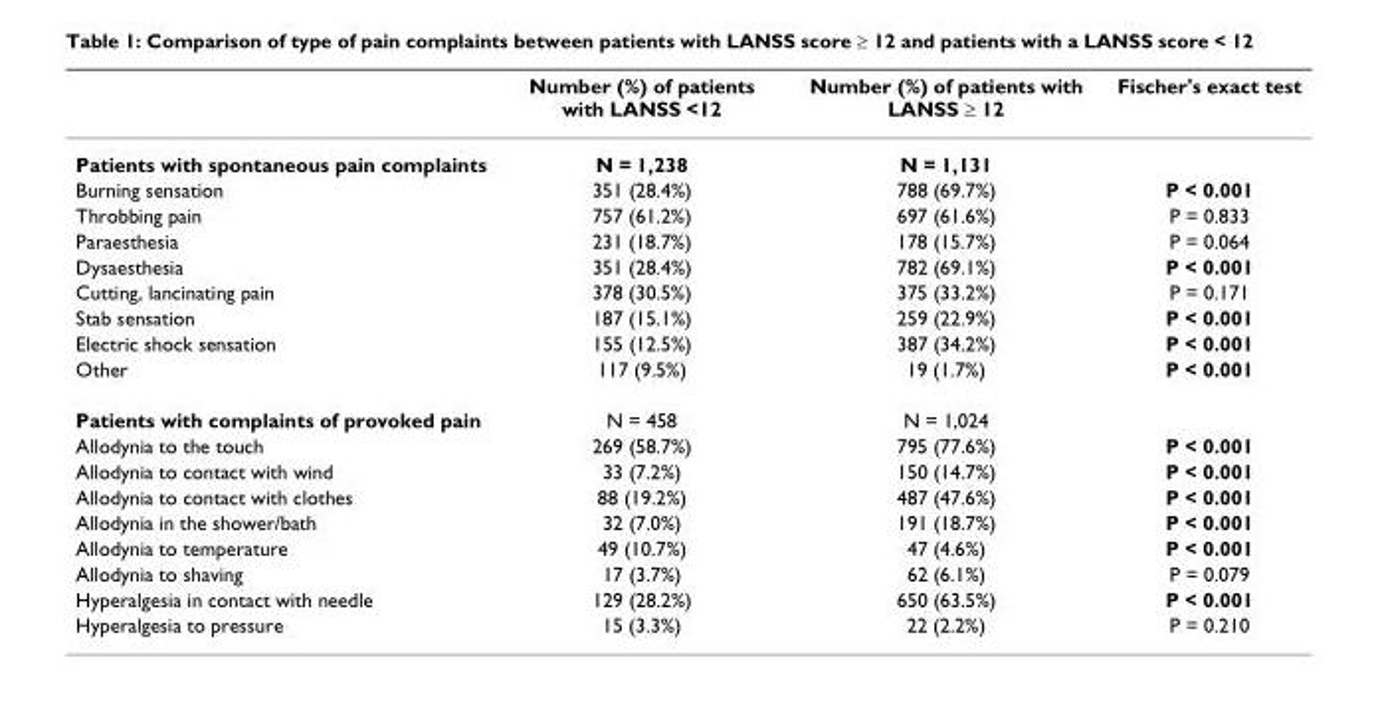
<table><thead><tr><td></td><td>Number (%) of patients with LANSS &lt;12</td><td>Number (%) of patients with LANSS ≥ 12</td><td>Fischer&#x27;s exact test</td></tr></thead><tbody><tr><td>Patients with spontaneous pain complaints</td><td>N = 1,238</td><td>N = 1,131</td><td></td></tr><tr><td>Burning sensation</td><td>351 (28.4%)</td><td>788 (69.7%)</td><td>P &lt; 0.001</td></tr><tr><td>Throbbing pain</td><td>757 (61.2%)</td><td>697 (61.6%)</td><td>P = 0.833</td></tr><tr><td>Paraesthesia</td><td>231 (18.7%)</td><td>178 (15.7%)</td><td>P = 0.064</td></tr><tr><td>Dysaesthesia</td><td>351 (28.4%)</td><td>782 (69.1%)</td><td>P &lt; 0.001</td></tr><tr><td>Cutting, lancinating pain</td><td>378 (30.5%)</td><td>375 (33.2%)</td><td>P = 0.171</td></tr><tr><td>Stab sensation</td><td>187 (15.1%)</td><td>259 (22.9%)</td><td>P &lt; 0.001</td></tr><tr><td>Electric shock sensation</td><td>155 (12.5%)</td><td>387 (34.2%)</td><td>P &lt; 0.001</td></tr><tr><td>Other</td><td>117 (9.5%)</td><td>19 (1.7%)</td><td>P &lt; 0.001</td></tr><tr><td>Patients with complaints of provoked pain</td><td>N = 458</td><td>N = 1,024</td><td></td></tr><tr><td>Allodynia to the touch</td><td>269 (58.7%)</td><td>795 (77.6%)</td><td>P &lt; 0.001</td></tr><tr><td>Allodynia to contact with wind</td><td>33 (7.2%)</td><td>150 (14.7%)</td><td>P &lt; 0.001</td></tr><tr><td>Allodynia to contact with clothes</td><td>88 (19.2%)</td><td>487 (47.6%)</td><td>P &lt; 0.001</td></tr><tr><td>Allodynia in the shower/bath</td><td>32 (7.0%)</td><td>191 (18.7%)</td><td>P &lt; 0.001</td></tr><tr><td>Allodynia to temperature</td><td>49 (10.7%)</td><td>47 (4.6%)</td><td>P &lt; 0.001</td></tr><tr><td>Allodynia to shaving</td><td>17 (3.7%)</td><td>62 (6.1%)</td><td>P = 0.079</td></tr><tr><td>Hyperalgesia in contact with needle</td><td>129 (28.2%)</td><td>650 (63.5%)</td><td>P &lt; 0.001</td></tr><tr><td>Hyperalgesia to pressure</td><td>15 (3.3%)</td><td>22 (2.2%)</td><td>P = 0.210</td></tr></tbody></table>